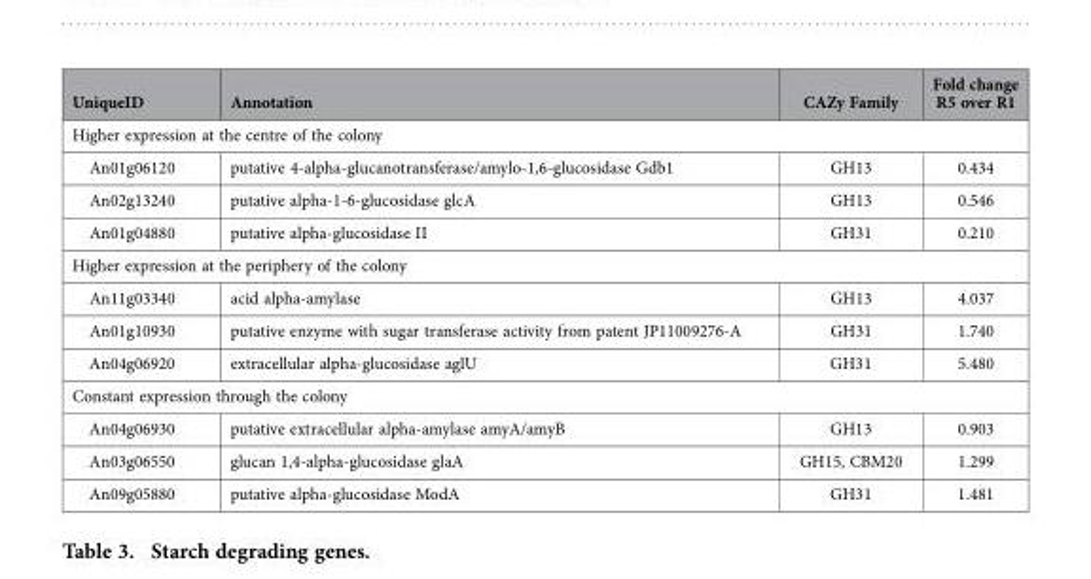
<table><thead><tr><td>UniqueID</td><td>Annotation</td><td>CAZy Family</td><td>Fold change R5 over R1</td></tr></thead><tbody><tr><td colspan="4">Higher expression at the centre of the colony</td></tr><tr><td>An01g06120</td><td>putative 4-alpha-glucanotransferase/amylo-1,6-glucosidase Gdb1</td><td>GH13</td><td>0.434</td></tr><tr><td>An02g13240</td><td>putative alpha-1-6-glucosidase glcA</td><td>GH13</td><td>0.546</td></tr><tr><td>An01g04880</td><td>putative alpha-glucosidase II</td><td>GH31</td><td>0.210</td></tr><tr><td colspan="4">Higher expression at the periphery of the colony</td></tr><tr><td>An11g03340</td><td>acid alpha-amylase</td><td>GH13</td><td>4.037</td></tr><tr><td>An01g10930</td><td>putative enzyme with sugar transferase activity from patent JP11009276-A</td><td>GH31</td><td>1.740</td></tr><tr><td>An04g06920</td><td>extracellular alpha-glucosidase aglU</td><td>GH31</td><td>5.480</td></tr><tr><td colspan="4">Constant expression through the colony</td></tr><tr><td>An04g06930</td><td>putative extracellular alpha-amylase amyA/amyB</td><td>GH13</td><td>0.903</td></tr><tr><td>An03g06550</td><td>glucan 1,4-alpha-glucosidase glaA</td><td>GH15, CBM20</td><td>1.299</td></tr><tr><td>An09g05880</td><td>putative alpha-glucosidase ModA</td><td>GH31</td><td>1.481</td></tr></tbody></table>